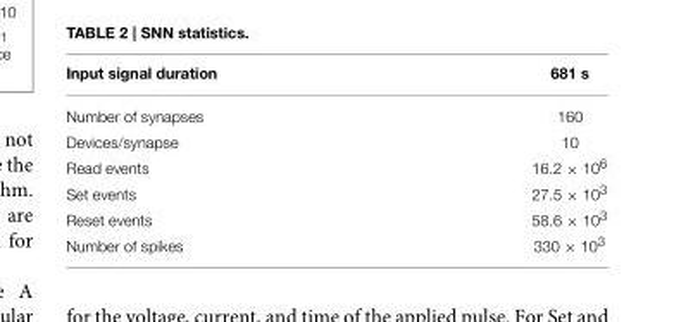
<table><thead><tr><td>Input signal duration</td><td>681 s</td></tr></thead><tbody><tr><td>Number of synapses</td><td>160</td></tr><tr><td>Devices/synapse</td><td>10</td></tr><tr><td>Read events</td><td>16.2 × 10<sup>6</sup></td></tr><tr><td>Set events</td><td>27.5 × 10<sup>3</sup></td></tr><tr><td>Reset events</td><td>58.6 × 10<sup>3</sup></td></tr><tr><td>Number of spikes</td><td>330 × 10<sup>3</sup></td></tr></tbody></table>